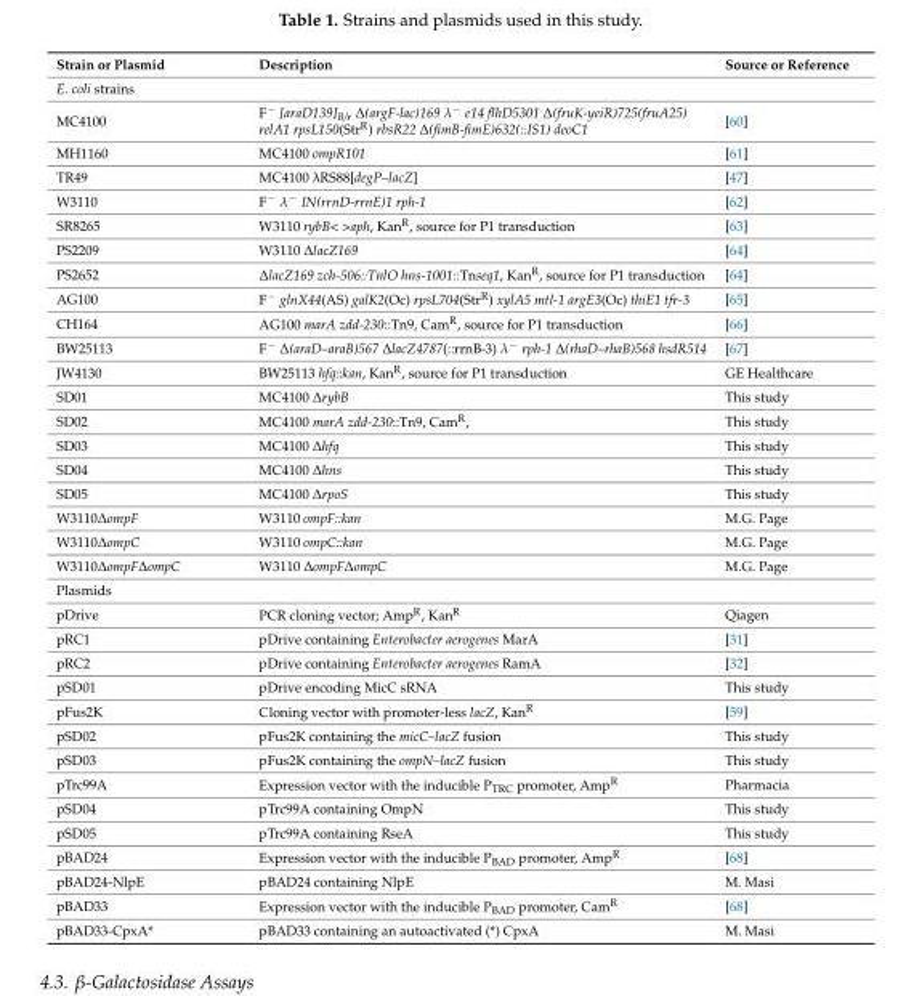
<table><thead><tr><td>Strain or Plasmid</td><td>Description</td><td>Source or Reference</td></tr></thead><tbody><tr><td colspan="3">E. coli strains</td></tr><tr><td>MC4100</td><td>F− [araD139]B/r ∆(argF-lac)169 λ− e14 flhD5301 ∆(fruK-yeiR)725(fruA25) relA1 rpsL150(StrR) rbsR22 ∆(fimB-fimE)632(::IS1) deoC1</td><td>[60]</td></tr><tr><td>MH1160</td><td>MC4100 ompR101</td><td>[61]</td></tr><tr><td>TR49</td><td>MC4100 λRS88[degP–lacZ]</td><td>[47]</td></tr><tr><td>W3110</td><td>F<sup>−</sup> λ<sup>−</sup> IN(rrnD-rrnE)1 rph-1</td><td>[62]</td></tr><tr><td>SR8265</td><td>W3110 rybB&lt; &gt;aph, Kan<sup>R</sup>, source for P1 transduction</td><td>[63]</td></tr><tr><td>PS2209</td><td>W3110 ∆lacZ169</td><td>[64]</td></tr><tr><td>PS2652</td><td>∆lacZ169 zch-506::TnlO hns-1001::Tnseq1, KanR, source for P1 transduction</td><td>[64]</td></tr><tr><td>AG100</td><td>F<sup>−</sup> glnX44(AS) galK2(Oc) rpsL704(Str<sup>R</sup>) xylA5 mtl-1 argE3(Oc) thiE1 tfr-3</td><td>[65]</td></tr><tr><td>CH164</td><td>AG100 marA zdd-230::Tn9, Cam<sup>R</sup>, source for P1 transduction</td><td>[66]</td></tr><tr><td>BW25113</td><td>F− ∆(araD–araB)567 ∆lacZ4787(::rrnB-3) λ− rph-1 ∆(rhaD–rhaB)568 hsdR514</td><td>[67]</td></tr><tr><td>JW4130</td><td>BW25113 hfq::kan, Kan<sup>R</sup>, source for P1 transduction</td><td>GE Healthcare</td></tr><tr><td>SD01</td><td>MC4100 ∆rybB</td><td>This study</td></tr><tr><td>SD02</td><td>MC4100 marA zdd-230::Tn9, Cam<sup>R</sup>,</td><td>This study</td></tr><tr><td>SD03</td><td>MC4100 ∆hfq</td><td>This study</td></tr><tr><td>SD04</td><td>MC4100 ∆hns</td><td>This study</td></tr><tr><td>SD05</td><td>MC4100 ∆rpoS</td><td>This study</td></tr><tr><td>W3110∆ompF</td><td>W3110 ompF::kan</td><td>M.G. Page</td></tr><tr><td>W3110∆ompC</td><td>W3110 ompC::kan</td><td>M.G. Page</td></tr><tr><td>W3110∆ompF∆ompC</td><td>W3110 ∆ompF∆ompC</td><td>M.G. Page</td></tr><tr><td colspan="3">Plasmids</td></tr><tr><td>pDrive</td><td>PCR cloning vector; Amp<sup>R</sup>, Kan<sup>R</sup></td><td>Qiagen</td></tr><tr><td>pRC1</td><td>pDrive containing Enterobacter aerogenes MarA</td><td>[31]</td></tr><tr><td>pRC2</td><td>pDrive containing Enterobacter aerogenes RamA</td><td>[32]</td></tr><tr><td>pSD01</td><td>pDrive encoding MicC sRNA</td><td>This study</td></tr><tr><td>pFus2K</td><td>Cloning vector with promoter-less lacZ, Kan<sup>R</sup></td><td>[59]</td></tr><tr><td>pSD02</td><td>pFus2K containing the micC–lacZ fusion</td><td>This study</td></tr><tr><td>pSD03</td><td>pFus2K containing the ompN–lacZ fusion</td><td>This study</td></tr><tr><td>pTrc99A</td><td>Expression vector with the inducible P<sub>TRC</sub> promoter, Amp<sup>R</sup></td><td>Pharmacia</td></tr><tr><td>pSD04</td><td>pTrc99A containing OmpN</td><td>This study</td></tr><tr><td>pSD05</td><td>pTrc99A containing RseA</td><td>This study</td></tr><tr><td>pBAD24</td><td>Expression vector with the inducible P<sub>BAD</sub> promoter, Amp<sup>R</sup></td><td>[68]</td></tr><tr><td>pBAD24-NlpE</td><td>pBAD24 containing NlpE</td><td>M. Masi</td></tr><tr><td>pBAD33</td><td>Expression vector with the inducible P<sub>BAD</sub> promoter, Cam<sup>R</sup></td><td>[68]</td></tr><tr><td>pBAD33-CpxA*</td><td>pBAD33 containing an autoactivated (*) CpxA</td><td>M. Masi</td></tr></tbody></table>